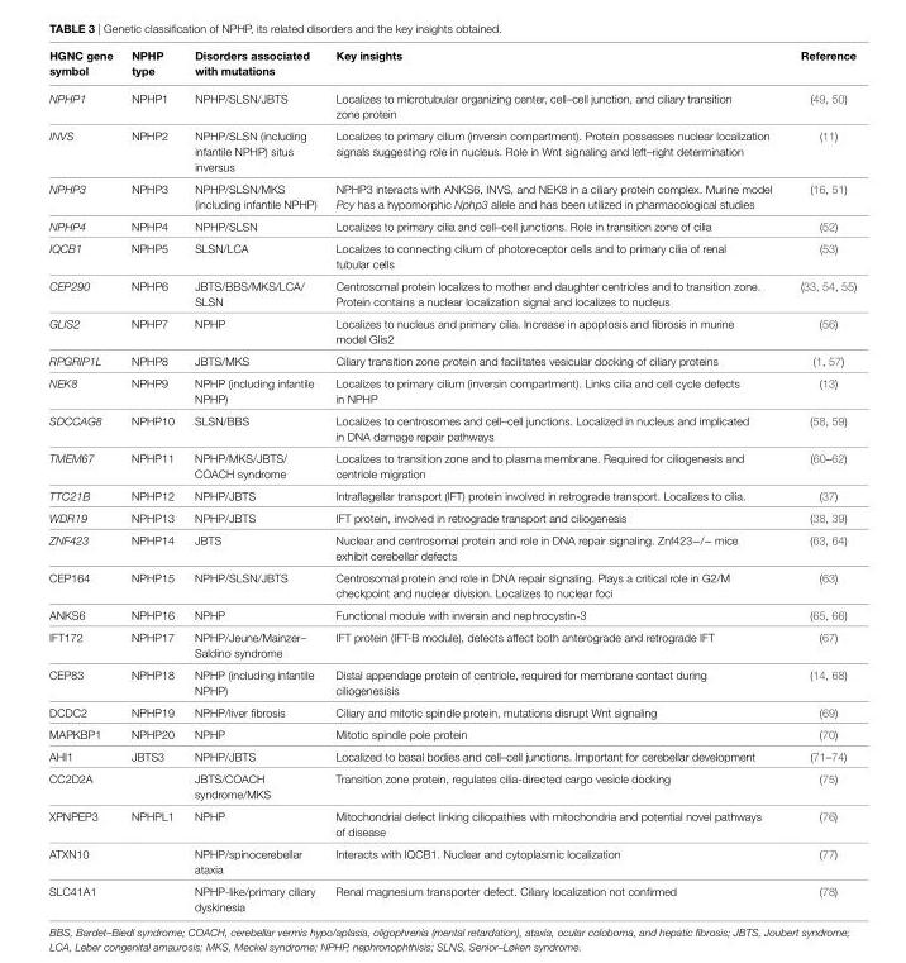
<table><thead><tr><td>HGNC gene symbol</td><td>NPHP type</td><td>Disorders associated with mutations</td><td>Key insights</td><td>Reference</td></tr></thead><tbody><tr><td>NPHP1</td><td>NPHP1</td><td>NPHP/SLSN/JBTS</td><td>Localizes to microtubular organizing center, cell–cell junction, and ciliary transition zone protein</td><td>(49, 50)</td></tr><tr><td>INVS</td><td>NPHP2</td><td>NPHP/SLSN (including infantile NPHP) situs inversus</td><td>Localizes to primary cilium (inversin compartment). Protein possesses nuclear localization signals suggesting role in nucleus. Role in Wnt signaling and left–right determination</td><td>(11)</td></tr><tr><td>NPHP3</td><td>NPHP3</td><td>NPHP/SLSN/MKS (including infantile NPHP)</td><td>NPHP3 interacts with ANKS6, INVS, and NEK8 in a ciliary protein complex. Murine model Pcy has a hypomorphic Nphp3 allele and has been utilized in pharmacological studies</td><td>(16, 51)</td></tr><tr><td>NPHP4</td><td>NPHP4</td><td>NPHP/SLSN</td><td>Localizes to primary cilia and cell–cell junctions. Role in transition zone of cilia</td><td>(52)</td></tr><tr><td>IQCB1</td><td>NPHP5</td><td>SLSN/LCA</td><td>Localizes to connecting cilium of photoreceptor cells and to primary cilia of renal tubular cells</td><td>(53)</td></tr><tr><td>CEP290</td><td>NPHP6</td><td>JBTS/BBS/MKS/LCA/ SLSN</td><td>Centrosomal protein localizes to mother and daughter centrioles and to transition zone. Protein contains a nuclear localization signal and localizes to nucleus</td><td>(33, 54, 55)</td></tr><tr><td>GLIS2</td><td>NPHP7</td><td>NPHP</td><td>Localizes to nucleus and primary cilia. Increase in apoptosis and fibrosis in murine model Glis2</td><td>(56)</td></tr><tr><td>RPGRIP1L</td><td>NPHP8</td><td>JBTS/MKS</td><td>Ciliary transition zone protein and facilitates vesicular docking of ciliary proteins</td><td>(1, 57)</td></tr><tr><td>NEK8</td><td>NPHP9</td><td>NPHP (including infantile NPHP)</td><td>Localizes to primary cilium (inversin compartment). Links cilia and cell cycle defects in NPHP</td><td>(13)</td></tr><tr><td>SDCCAG8</td><td>NPHP10</td><td>SLSN/BBS</td><td>Localizes to centrosomes and cell–cell junctions. Localized in nucleus and implicated in DNA damage repair pathways</td><td>(58, 59)</td></tr><tr><td>TMEM67</td><td>NPHP11</td><td>NPHP/MKS/JBTS/ COACH syndrome</td><td>Localizes to transition zone and to plasma membrane. Required for ciliogenesis and centriole migration</td><td>(60–62)</td></tr><tr><td>TTC21B</td><td>NPHP12</td><td>NPHP/JBTS</td><td>Intraflagellar transport (IFT) protein involved in retrograde transport. Localizes to cilia.</td><td>(37)</td></tr><tr><td>WDR19</td><td>NPHP13</td><td>NPHP/JBTS</td><td>IFT protein, involved in retrograde transport and ciliogenesis</td><td>(38, 39)</td></tr><tr><td>ZNF423</td><td>NPHP14</td><td>JBTS</td><td>Nuclear and centrosomal protein and role in DNA repair signaling. Znf423−/− mice exhibit cerebellar defects</td><td>(63, 64)</td></tr><tr><td>CEP164</td><td>NPHP15</td><td>NPHP/SLSN/JBTS</td><td>Centrosomal protein and role in DNA repair signaling. Plays a critical role in G2/M checkpoint and nuclear division. Localizes to nuclear foci</td><td>(63)</td></tr><tr><td>ANKS6</td><td>NPHP16</td><td>NPHP</td><td>Functional module with inversin and nephrocystin-3</td><td>(65, 66)</td></tr><tr><td>IFT172</td><td>NPHP17</td><td>NPHP/Jeune/Mainzer– Saldino syndrome</td><td>IFT protein (IFT-B module), defects affect both anterograde and retrograde IFT</td><td>(67)</td></tr><tr><td>CEP83</td><td>NPHP18</td><td>NPHP (including infantile NPHP)</td><td>Distal appendage protein of centriole, required for membrane contact during ciliogenesisis</td><td>(14, 68)</td></tr><tr><td>DCDC2</td><td>NPHP19</td><td>NPHP/liver fibrosis</td><td>Ciliary and mitotic spindle protein, mutations disrupt Wnt signaling</td><td>(69)</td></tr><tr><td>MAPKBP1</td><td>NPHP20</td><td>NPHP</td><td>Mitotic spindle pole protein</td><td>(70)</td></tr><tr><td>AHI1</td><td>JBTS3</td><td>NPHP/JBTS</td><td>Localized to basal bodies and cell–cell junctions. Important for cerebellar development</td><td>(71–74)</td></tr><tr><td>CC2D2A</td><td></td><td>JBTS/COACH syndrome/MKS</td><td>Transition zone protein, regulates cilia-directed cargo vesicle docking</td><td>(75)</td></tr><tr><td>XPNPEP3</td><td>NPHPL1</td><td>NPHP</td><td>Mitochondrial defect linking ciliopathies with mitochondria and potential novel pathways of disease</td><td>(76)</td></tr><tr><td>ATXN10</td><td></td><td>NPHP/spinocerebellar ataxia</td><td>Interacts with IQCB1. Nuclear and cytoplasmic localization</td><td>(77)</td></tr><tr><td>SLC41A1</td><td></td><td>NPHP-like/primary ciliary dyskinesia</td><td>Renal magnesium transporter defect. Ciliary localization not confirmed</td><td>(78)</td></tr></tbody></table>